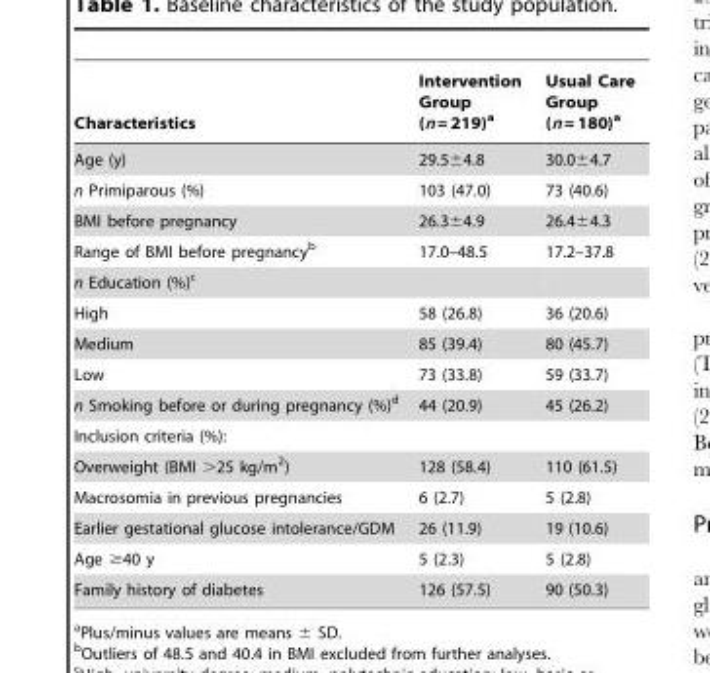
<table><thead><tr><td>Characteristics</td><td>Intervention Group (n = 219)<sup>a</sup></td><td>Usual Care Group (n = 180)<sup>a</sup></td></tr></thead><tbody><tr><td>Age (y)</td><td>29.5±4.8</td><td>30.0±4.7</td></tr><tr><td>n Primiparous (%)</td><td>103 (47.0)</td><td>73 (40.6)</td></tr><tr><td>BMI before pregnancy</td><td>26.3±4.9</td><td>26.4±4.3</td></tr><tr><td>Range of BMI before pregnancy<sup>b</sup></td><td>17.0–48.5</td><td>17.2–37.8</td></tr><tr><td colspan="3">n Education (%)<sup>c</sup></td></tr><tr><td>High</td><td>58 (26.8)</td><td>36 (20.6)</td></tr><tr><td>Medium</td><td>85 (39.4)</td><td>80 (45.7)</td></tr><tr><td>Low</td><td>73 (33.8)</td><td>59 (33.7)</td></tr><tr><td>n Smoking before or during pregnancy (%)<sup>d</sup></td><td>44 (20.9)</td><td>45 (26.2)</td></tr><tr><td colspan="3">Inclusion criteria (%):</td></tr><tr><td>Overweight (BMI &gt;25 kg/m<sup>2</sup>)</td><td>128 (58.4)</td><td>110 (61.5)</td></tr><tr><td>Macrosomia in previous pregnancies</td><td>6 (2.7)</td><td>5 (2.8)</td></tr><tr><td>Earlier gestational glucose intolerance/GDM</td><td>26 (11.9)</td><td>19 (10.6)</td></tr><tr><td>Age ≥40 y</td><td>5 (2.3)</td><td>5 (2.8)</td></tr><tr><td>Family history of diabetes</td><td>126 (57.5)</td><td>90 (50.3)</td></tr></tbody></table>